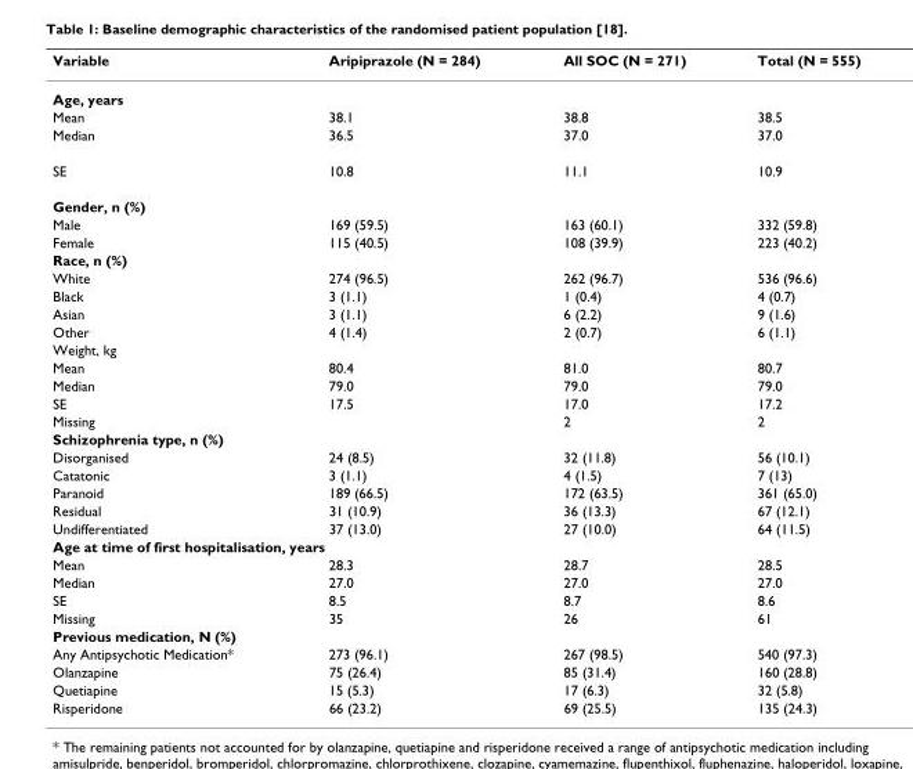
<table><thead><tr><td>Variable</td><td>Aripiprazole (N = 284)</td><td>All SOC (N = 271)</td><td>Total (N = 555)</td></tr></thead><tbody><tr><td colspan="4">Age, years</td></tr><tr><td>Mean</td><td>38.1</td><td>38.8</td><td>38.5</td></tr><tr><td>Median</td><td>36.5</td><td>37.0</td><td>37.0</td></tr><tr><td>SE</td><td>10.8</td><td>11.1</td><td>10.9</td></tr><tr><td colspan="4">Gender, n (%)</td></tr><tr><td>Male</td><td>169 (59.5)</td><td>163 (60.1)</td><td>332 (59.8)</td></tr><tr><td>Female</td><td>115 (40.5)</td><td>108 (39.9)</td><td>223 (40.2)</td></tr><tr><td colspan="4">Race, n (%)</td></tr><tr><td>White</td><td>274 (96.5)</td><td>262 (96.7)</td><td>536 (96.6)</td></tr><tr><td>Black</td><td>3 (1.1)</td><td>1 (0.4)</td><td>4 (0.7)</td></tr><tr><td>Asian</td><td>3 (1.1)</td><td>6 (2.2)</td><td>9 (1.6)</td></tr><tr><td>Other</td><td>4 (1.4)</td><td>2 (0.7)</td><td>6 (1.1)</td></tr><tr><td colspan="4">Weight, kg</td></tr><tr><td>Mean</td><td>80.4</td><td>81.0</td><td>80.7</td></tr><tr><td>Median</td><td>79.0</td><td>79.0</td><td>79.0</td></tr><tr><td>SE</td><td>17.5</td><td>17.0</td><td>17.2</td></tr><tr><td>Missing</td><td></td><td>2</td><td>2</td></tr><tr><td colspan="4">Schizophrenia type, n (%)</td></tr><tr><td>Disorganised</td><td>24 (8.5)</td><td>32 (11.8)</td><td>56 (10.1)</td></tr><tr><td>Catatonic</td><td>3 (1.1)</td><td>4 (1.5)</td><td>7 (13)</td></tr><tr><td>Paranoid</td><td>189 (66.5)</td><td>172 (63.5)</td><td>361 (65.0)</td></tr><tr><td>Residual</td><td>31 (10.9)</td><td>36 (13.3)</td><td>67 (12.1)</td></tr><tr><td>Undifferentiated</td><td>37 (13.0)</td><td>27 (10.0)</td><td>64 (11.5)</td></tr><tr><td colspan="4">Age at time of first hospitalisation, years</td></tr><tr><td>Mean</td><td>28.3</td><td>28.7</td><td>28.5</td></tr><tr><td>Median</td><td>27.0</td><td>27.0</td><td>27.0</td></tr><tr><td>SE</td><td>8.5</td><td>8.7</td><td>8.6</td></tr><tr><td>Missing</td><td>35</td><td>26</td><td>61</td></tr><tr><td colspan="4">Previous medication, N (%)</td></tr><tr><td>Any Antipsychotic Medication*</td><td>273 (96.1)</td><td>267 (98.5)</td><td>540 (97.3)</td></tr><tr><td>Olanzapine</td><td>75 (26.4)</td><td>85 (31.4)</td><td>160 (28.8)</td></tr><tr><td>Quetiapine</td><td>15 (5.3)</td><td>17 (6.3)</td><td>32 (5.8)</td></tr><tr><td>Risperidone</td><td>66 (23.2)</td><td>69 (25.5)</td><td>135 (24.3)</td></tr></tbody></table>